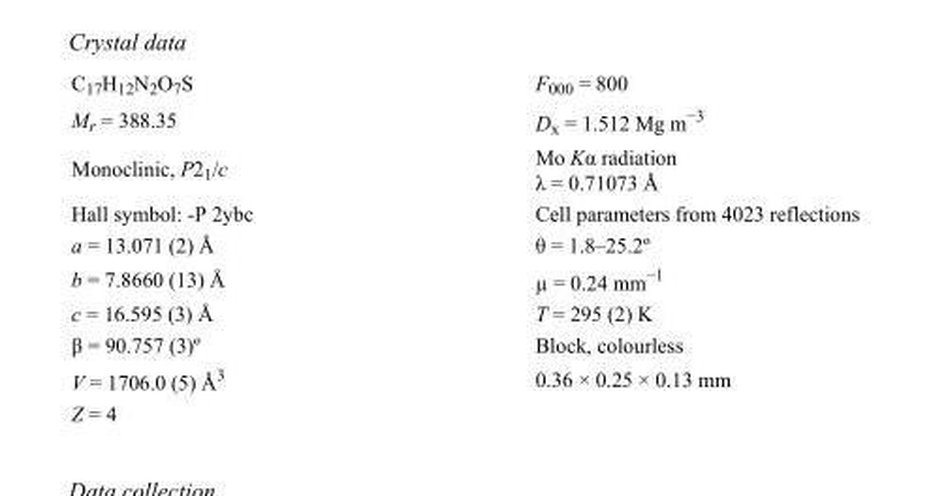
<table><tbody><tr><td>C<sub>17</sub>H<sub>12</sub>N<sub>2</sub>O<sub>7</sub>S</td><td>F<sub>000</sub> = 800</td></tr><tr><td>M<sub>r</sub> = 388.35</td><td>D<sub>x</sub> = 1.512 Mg m<sup>−3</sup></td></tr><tr><td>Monoclinic, P2<sub>1</sub>/c</td><td>Mo Kα radiation λ = 0.71073 Å</td></tr><tr><td>Hall symbol: -P 2ybc</td><td>Cell parameters from 4023 reflections</td></tr><tr><td>a = 13.071 (2) Å</td><td>θ = 1.8–25.2º</td></tr><tr><td>b = 7.8660 (13) Å</td><td>µ = 0.24 mm<sup>−1</sup></td></tr><tr><td>c = 16.595 (3) Å</td><td>T = 295 (2) K</td></tr><tr><td>β = 90.757 (3)º</td><td>Block, colourless</td></tr><tr><td>V = 1706.0 (5) Å<sup>3</sup></td><td>0.36 × 0.25 × 0.13 mm</td></tr><tr><td>Z = 4</td><td></td></tr></tbody></table>